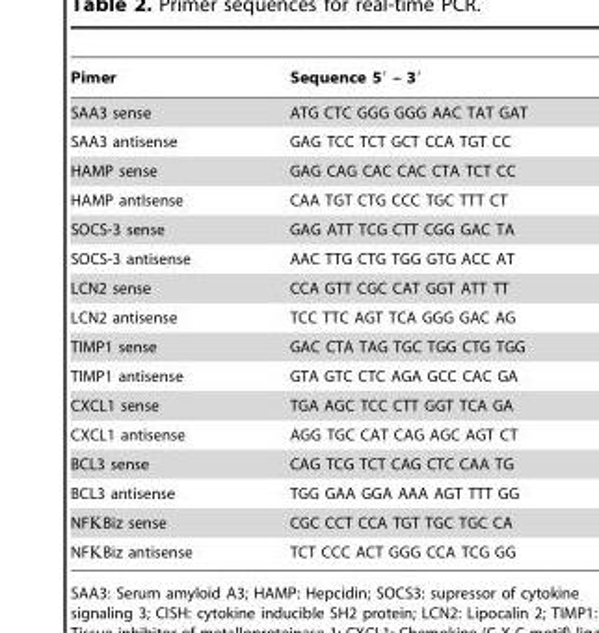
<table><thead><tr><td>Pimer</td><td>Sequence 5′ – 3′</td></tr></thead><tbody><tr><td>SAA3 sense</td><td>ATG CTC GGG GGG AAC TAT GAT</td></tr><tr><td>SAA3 antisense</td><td>GAG TCC TCT GCT CCA TGT CC</td></tr><tr><td>HAMP sense</td><td>GAG CAG CAC CAC CTA TCT CC</td></tr><tr><td>HAMP antIsense</td><td>CAA TGT CTG CCC TGC TTT CT</td></tr><tr><td>SOCS-3 sense</td><td>GAG ATT TCG CTT CGG GAC TA</td></tr><tr><td>SOCS-3 antisense</td><td>AAC TTG CTG TGG GTG ACC AT</td></tr><tr><td>LCN2 sense</td><td>CCA GTT CGC CAT GGT ATT TT</td></tr><tr><td>LCN2 antisense</td><td>TCC TTC AGT TCA GGG GAC AG</td></tr><tr><td>TIMP1 sense</td><td>GAC CTA TAG TGC TGG CTG TGG</td></tr><tr><td>TIMP1 antisense</td><td>GTA GTC CTC AGA GCC CAC GA</td></tr><tr><td>CXCL1 sense</td><td>TGA AGC TCC CTT GGT TCA GA</td></tr><tr><td>CXCL1 antisense</td><td>AGG TGC CAT CAG AGC AGT CT</td></tr><tr><td>BCL3 sense</td><td>CAG TCG TCT CAG CTC CAA TG</td></tr><tr><td>BCL3 antisense</td><td>TGG GAA GGA AAA AGT TTT GG</td></tr><tr><td>NFKBiz sense</td><td>CGC CCT CCA TGT TGC TGC CA</td></tr><tr><td>NFKBiz antisense</td><td>TCT CCC ACT GGG CCA TCG GG</td></tr></tbody></table>